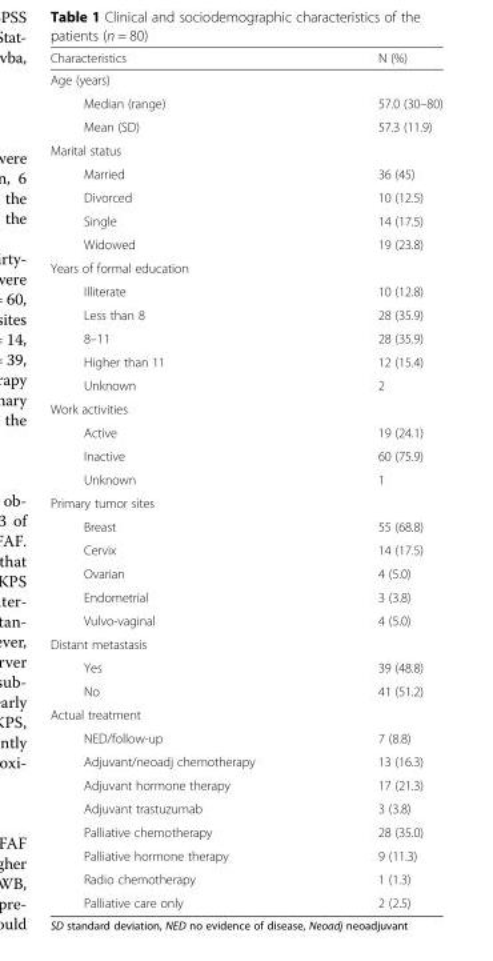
<table><thead><tr><td>Characteristics</td><td>N (%)</td></tr></thead><tbody><tr><td colspan="2">Age (years)</td></tr><tr><td>Median (range)</td><td>57.0 (30–80)</td></tr><tr><td>Mean (SD)</td><td>57.3 (11.9)</td></tr><tr><td colspan="2">Marital status</td></tr><tr><td>Married</td><td>36 (45)</td></tr><tr><td>Divorced</td><td>10 (12.5)</td></tr><tr><td>Single</td><td>14 (17.5)</td></tr><tr><td>Widowed</td><td>19 (23.8)</td></tr><tr><td colspan="2">Years of formal education</td></tr><tr><td>Illiterate</td><td>10 (12.8)</td></tr><tr><td>Less than 8</td><td>28 (35.9)</td></tr><tr><td>8–11</td><td>28 (35.9)</td></tr><tr><td>Higher than 11</td><td>12 (15.4)</td></tr><tr><td>Unknown</td><td>2</td></tr><tr><td colspan="2">Work activities</td></tr><tr><td>Active</td><td>19 (24.1)</td></tr><tr><td>Inactive</td><td>60 (75.9)</td></tr><tr><td>Unknown</td><td>1</td></tr><tr><td colspan="2">Primary tumor sites</td></tr><tr><td>Breast</td><td>55 (68.8)</td></tr><tr><td>Cervix</td><td>14 (17.5)</td></tr><tr><td>Ovarian</td><td>4 (5.0)</td></tr><tr><td>Endometrial</td><td>3 (3.8)</td></tr><tr><td>Vulvo-vaginal</td><td>4 (5.0)</td></tr><tr><td colspan="2">Distant metastasis</td></tr><tr><td>Yes</td><td>39 (48.8)</td></tr><tr><td>No</td><td>41 (51.2)</td></tr><tr><td colspan="2">Actual treatment</td></tr><tr><td>NED/follow-up</td><td>7 (8.8)</td></tr><tr><td>Adjuvant/neoadj chemotherapy</td><td>13 (16.3)</td></tr><tr><td>Adjuvant hormone therapy</td><td>17 (21.3)</td></tr><tr><td>Adjuvant trastuzumab</td><td>3 (3.8)</td></tr><tr><td>Palliative chemotherapy</td><td>28 (35.0)</td></tr><tr><td>Palliative hormone therapy</td><td>9 (11.3)</td></tr><tr><td>Radio chemotherapy</td><td>1 (1.3)</td></tr><tr><td>Palliative care only</td><td>2 (2.5)</td></tr></tbody></table>